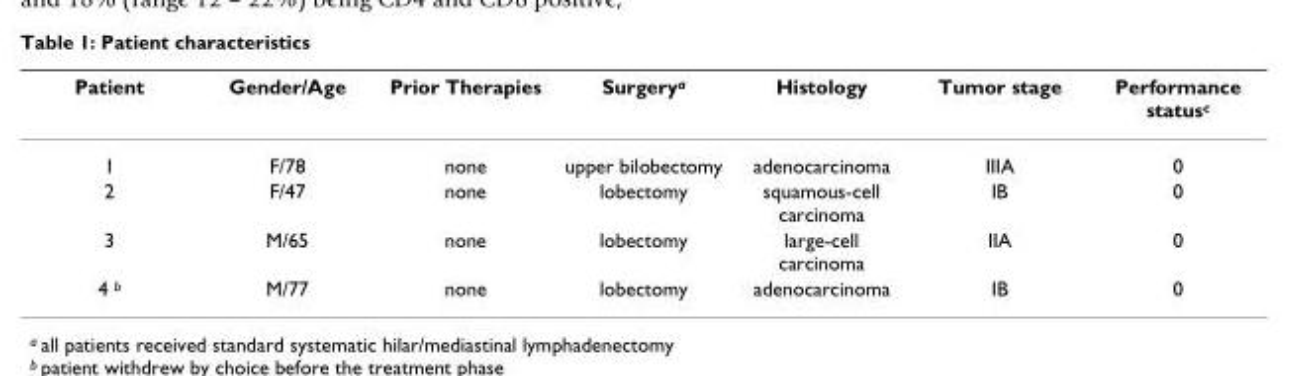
<table><thead><tr><td>Patient</td><td>Gender/Age</td><td>Prior Therapies</td><td>Surgery<sup>a</sup></td><td>Histology</td><td>Tumor stage</td><td>Performance status<sup>c</sup></td></tr></thead><tbody><tr><td>1</td><td>F/78</td><td>none</td><td>upper bilobectomy</td><td>adenocarcinoma</td><td>IIIA</td><td>0</td></tr><tr><td>2</td><td>F/47</td><td>none</td><td>lobectomy</td><td>squamous-cell carcinoma</td><td>IB</td><td>0</td></tr><tr><td>3</td><td>M/65</td><td>none</td><td>lobectomy</td><td>large-cell carcinoma</td><td>IIA</td><td>0</td></tr><tr><td>4 <sup>b</sup></td><td>M/77</td><td>none</td><td>lobectomy</td><td>adenocarcinoma</td><td>IB</td><td>0</td></tr></tbody></table>